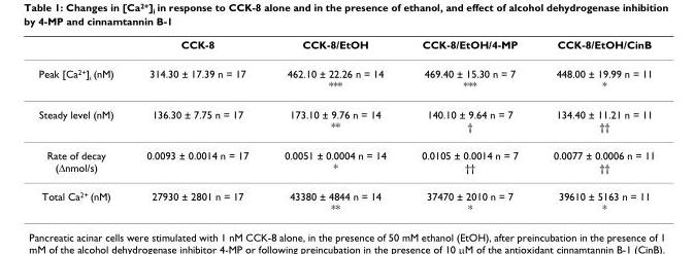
<table><thead><tr><td></td><td>CCK-8</td><td>CCK-8/EtOH</td><td>CCK-8/EtOH/4-MP</td><td>CCK-8/EtOH/CinB</td></tr></thead><tbody><tr><td>Peak [Ca<sup>2+</sup>]<sub>i</sub> (nM)</td><td>314.30 ± 17.39 n = 17</td><td>462.10 ± 22.26 n = 14 ***</td><td>469.40 ± 15.30 n = 7 ***</td><td>448.00 ± 19.99 n = 11 *</td></tr><tr><td>Steady level (nM)</td><td>136.30 ± 7.75 n = 17</td><td>173.10 ± 9.76 n = 14 **</td><td>140.10 ± 9.64 n = 7 †</td><td>134.40 ± 11.21 n = 11 ††</td></tr><tr><td>Rate of decay (Δnmol/s)</td><td>0.0093 ± 0.0014 n = 17</td><td>0.0051 ± 0.0004 n = 14 *</td><td>0.0105 ± 0.0014 n = 7 ††</td><td>0.0077 ± 0.0006 n = 11 ††</td></tr><tr><td>Total Ca<sup>2+</sup> (nM)</td><td>27930 ± 2801 n = 17</td><td>43380 ± 4844 n = 14 **</td><td>37470 ± 2010 n = 7 *</td><td>39610 ± 5163 n = 11 *</td></tr></tbody></table>